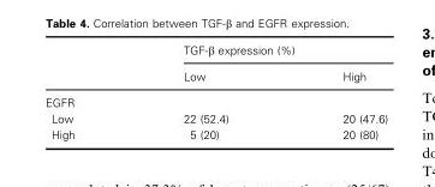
<table><thead><tr><td rowspan="2"></td><td colspan="2">TGF-β expression (%)</td></tr><tr><td>Low</td><td>High</td></tr></thead><tbody><tr><td colspan="3">EGFR</td></tr><tr><td>Low</td><td>22 (52.4)</td><td>20 (47.6)</td></tr><tr><td>High</td><td>5 (20)</td><td>20 (80)</td></tr></tbody></table>